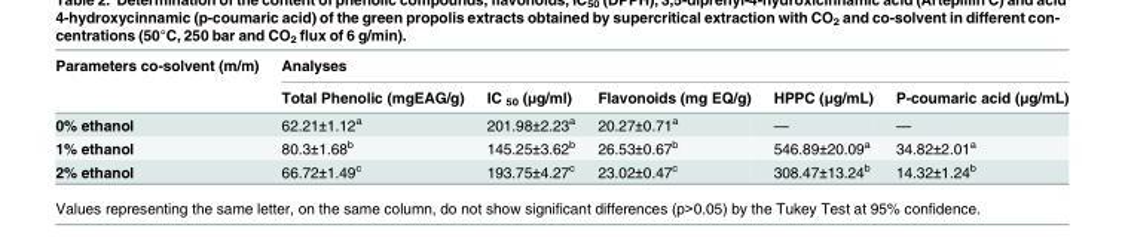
<table><thead><tr><td rowspan="2">Parameters co-solvent (m/m)</td><td colspan="5">Analyses</td></tr><tr><td>Total Phenolic (mgEAG/g)</td><td>IC <sub>50</sub> (μg/ml)</td><td>Flavonoids (mg EQ/g)</td><td>HPPC (μg/mL)</td><td>P-coumaric acid (μg/mL)</td></tr></thead><tbody><tr><td>0% ethanol</td><td>62.21±1.12<sup>a</sup></td><td>201.98±2.23<sup>a</sup></td><td>20.27±0.71<sup>a</sup></td><td>—</td><td>—</td></tr><tr><td>1% ethanol</td><td>80.3±1.68<sup>b</sup></td><td>145.25±3.62<sup>b</sup></td><td>26.53±0.67<sup>b</sup></td><td>546.89±20.09<sup>a</sup></td><td>34.82±2.01<sup>a</sup></td></tr><tr><td>2% ethanol</td><td>66.72±1.49<sup>c</sup></td><td>193.75±4.27<sup>c</sup></td><td>23.02±0.47<sup>c</sup></td><td>308.47±13.24<sup>b</sup></td><td>14.32±1.24<sup>b</sup></td></tr></tbody></table>